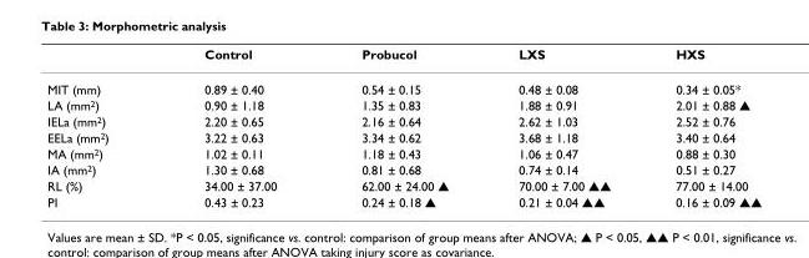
<table><thead><tr><td></td><td>Control</td><td>Probucol</td><td>LXS</td><td>HXS</td></tr></thead><tbody><tr><td>MIT (mm)</td><td>0.89 ± 0.40</td><td>0.54 ± 0.15</td><td>0.48 ± 0.08</td><td>0.34 ± 0.05*</td></tr><tr><td>LA (mm<sup>2</sup>)</td><td>0.90 ± 1.18</td><td>1.35 ± 0.83</td><td>1.88 ± 0.91</td><td>2.01 ± 0.88 ▲</td></tr><tr><td>IELa (mm<sup>2</sup>)</td><td>2.20 ± 0.65</td><td>2.16 ± 0.64</td><td>2.62 ± 1.03</td><td>2.52 ± 0.76</td></tr><tr><td>EELa (mm<sup>2</sup>)</td><td>3.22 ± 0.63</td><td>3.34 ± 0.62</td><td>3.68 ± 1.18</td><td>3.40 ± 0.64</td></tr><tr><td>MA (mm<sup>2</sup>)</td><td>1.02 ± 0.11</td><td>1.18 ± 0.43</td><td>1.06 ± 0.47</td><td>0.88 ± 0.30</td></tr><tr><td>IA (mm<sup>2</sup>)</td><td>1.30 ± 0.68</td><td>0.81 ± 0.68</td><td>0.74 ± 0.14</td><td>0.51 ± 0.27</td></tr><tr><td>RL (%)</td><td>34.00 ± 37.00</td><td>62.00 ± 24.00 ▲</td><td>70.00 ± 7.00 ▲▲</td><td>77.00 ± 14.00</td></tr><tr><td>PI</td><td>0.43 ± 0.23</td><td>0.24 ± 0.18 ▲</td><td>0.21 ± 0.04 ▲▲</td><td>0.16 ± 0.09 ▲▲</td></tr></tbody></table>